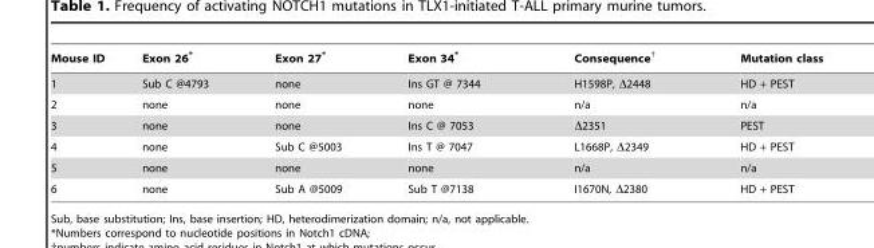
<table><thead><tr><td>Mouse ID</td><td>Exon 26*</td><td>Exon 27*</td><td>Exon 34*</td><td>Consequence†</td><td>Mutation class</td></tr></thead><tbody><tr><td>1</td><td>Sub C @4793</td><td>none</td><td>Ins GT @ 7344</td><td>H1598P, Δ2448</td><td>HD + PEST</td></tr><tr><td>2</td><td>none</td><td>none</td><td>none</td><td>n/a</td><td>n/a</td></tr><tr><td>3</td><td>none</td><td>none</td><td>Ins C @ 7053</td><td>Δ2351</td><td>PEST</td></tr><tr><td>4</td><td>none</td><td>Sub C @5003</td><td>Ins T @ 7047</td><td>L1668P, Δ2349</td><td>HD + PEST</td></tr><tr><td>5</td><td>none</td><td>none</td><td>none</td><td>n/a</td><td>n/a</td></tr><tr><td>6</td><td>none</td><td>Sub A @5009</td><td>Sub T @7138</td><td>I1670N, Δ2380</td><td>HD + PEST</td></tr></tbody></table>